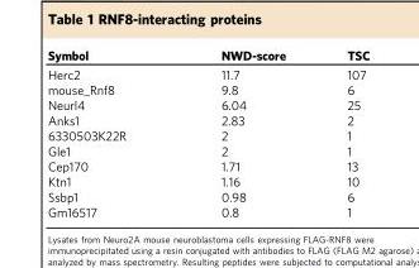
<table><thead><tr><td>Symbol</td><td>NWD-score</td><td>TSC</td></tr></thead><tbody><tr><td>Herc2</td><td>11.7</td><td>107</td></tr><tr><td>mouse_Rnf8</td><td>9.8</td><td>6</td></tr><tr><td>Neurl4</td><td>6.04</td><td>25</td></tr><tr><td>Anks1</td><td>2.83</td><td>2</td></tr><tr><td>6330503K22R</td><td>2</td><td>1</td></tr><tr><td>Gle1</td><td>2</td><td>1</td></tr><tr><td>Cep170</td><td>1.71</td><td>13</td></tr><tr><td>Ktn1</td><td>1.16</td><td>10</td></tr><tr><td>Ssbp1</td><td>0.98</td><td>6</td></tr><tr><td>Gm16517</td><td>0.8</td><td>1</td></tr></tbody></table>